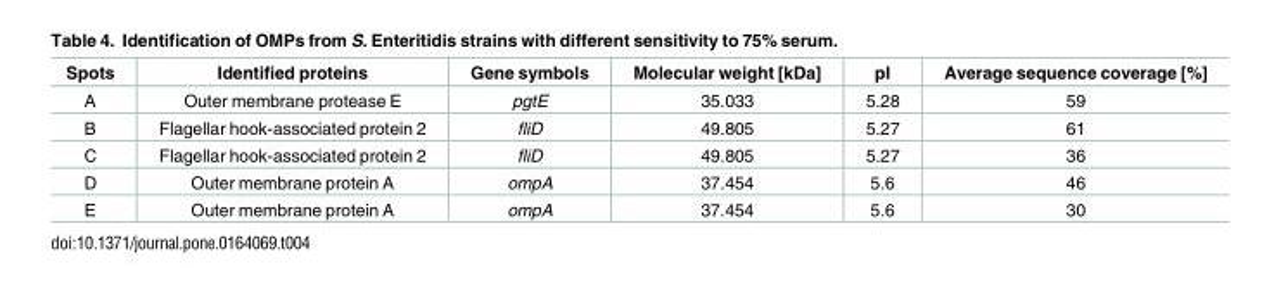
<table><thead><tr><td>Spots</td><td>Identified proteins</td><td>Gene symbols</td><td>Molecular weight [kDa]</td><td>pI</td><td>Average sequence coverage [%]</td></tr></thead><tbody><tr><td>A</td><td>Outer membrane protease E</td><td>pgtE</td><td>35.033</td><td>5.28</td><td>59</td></tr><tr><td>B</td><td>Flagellar hook-associated protein 2</td><td>fliD</td><td>49.805</td><td>5.27</td><td>61</td></tr><tr><td>C</td><td>Flagellar hook-associated protein 2</td><td>fliD</td><td>49.805</td><td>5.27</td><td>36</td></tr><tr><td>D</td><td>Outer membrane protein A</td><td>ompA</td><td>37.454</td><td>5.6</td><td>46</td></tr><tr><td>E</td><td>Outer membrane protein A</td><td>ompA</td><td>37.454</td><td>5.6</td><td>30</td></tr></tbody></table>